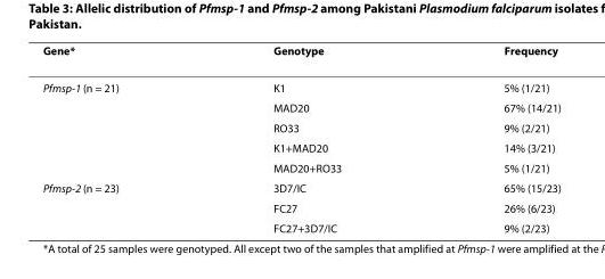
<table><thead><tr><td>Gene*</td><td>Genotype</td><td>Frequency</td></tr></thead><tbody><tr><td rowspan="5">Pfmsp-1 (n = 21)</td><td>K1</td><td>5% (1/21)</td></tr><tr><td>MAD20</td><td>67% (14/21)</td></tr><tr><td>RO33</td><td>9% (2/21)</td></tr><tr><td>K1+MAD20</td><td>14% (3/21)</td></tr><tr><td>MAD20+RO33</td><td>5% (1/21)</td></tr><tr><td rowspan="3">Pfmsp-2 (n = 23)</td><td>3D7/IC</td><td>65% (15/23)</td></tr><tr><td>FC27</td><td>26% (6/23)</td></tr><tr><td>FC27+3D7/IC</td><td>9% (2/23)</td></tr></tbody></table>